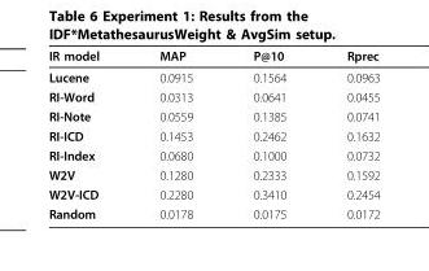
<table><thead><tr><td>IR model</td><td>MAP</td><td>P@10</td><td>Rprec</td></tr></thead><tbody><tr><td>Lucene</td><td>0.0915</td><td>0.1564</td><td>0.0963</td></tr><tr><td>RI-Word</td><td>0.0313</td><td>0.0641</td><td>0.0455</td></tr><tr><td>RI-Note</td><td>0.0559</td><td>0.1385</td><td>0.0741</td></tr><tr><td>RI-ICD</td><td>0.1453</td><td>0.2462</td><td>0.1632</td></tr><tr><td>RI-Index</td><td>0.0680</td><td>0.1000</td><td>0.0732</td></tr><tr><td>W2V</td><td>0.1280</td><td>0.2333</td><td>0.1592</td></tr><tr><td>W2V-ICD</td><td>0.2280</td><td>0.3410</td><td>0.2454</td></tr><tr><td>Random</td><td>0.0178</td><td>0.0175</td><td>0.0172</td></tr></tbody></table>